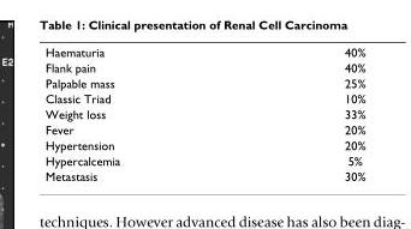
<table><tbody><tr><td>Haematuria</td><td>40%</td></tr><tr><td>Flank pain</td><td>40%</td></tr><tr><td>Palpable mass</td><td>25%</td></tr><tr><td>Classic Triad</td><td>10%</td></tr><tr><td>Weight loss</td><td>33%</td></tr><tr><td>Fever</td><td>20%</td></tr><tr><td>Hypertension</td><td>20%</td></tr><tr><td>Hypercalcemia</td><td>5%</td></tr><tr><td>Metastasis</td><td>30%</td></tr></tbody></table>